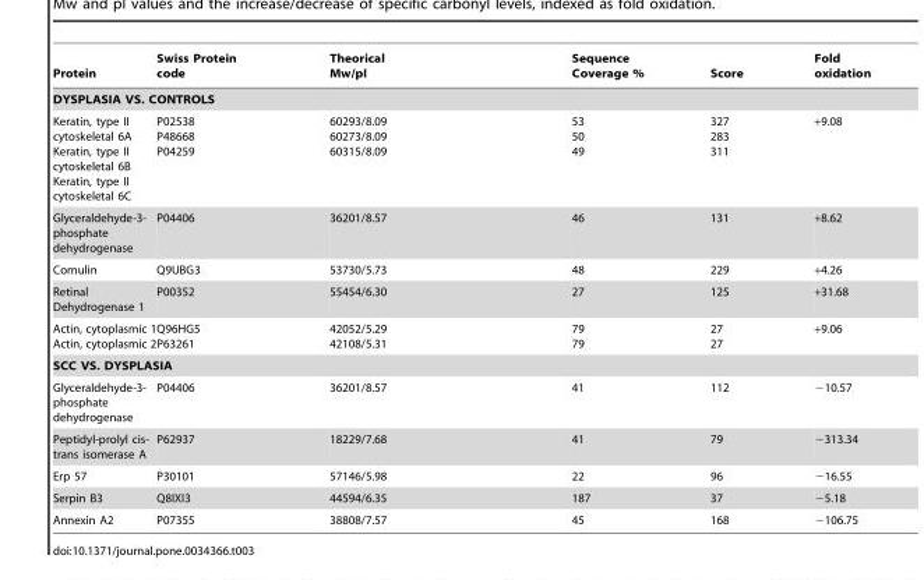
<table><thead><tr><td>Protein</td><td>Swiss Protein code</td><td>Theorical Mw/pI</td><td>Sequence Coverage %</td><td>Score</td><td>Fold oxidation</td></tr></thead><tbody><tr><td colspan="6">DYSPLASIA VS. CONTROLS</td></tr><tr><td>Keratin, type II cytoskeletal 6A Keratin, type II cytoskeletal 6B Keratin, type II cytoskeletal 6C</td><td>P02538 P48668 P04259</td><td>60293/8.09 60273/8.09 60315/8.09</td><td>53 50 49</td><td>327 283 311</td><td>+9.08</td></tr><tr><td>Glyceraldehyde-3- phosphate dehydrogenase</td><td>P04406</td><td>36201/8.57</td><td>46</td><td>131</td><td>+8.62</td></tr><tr><td>Cornulin</td><td>Q9UBG3</td><td>53730/5.73</td><td>48</td><td>229</td><td>+4.26</td></tr><tr><td>Retinal Dehydrogenase 1</td><td>P00352</td><td>55454/6.30</td><td>27</td><td>125</td><td>+31.68</td></tr><tr><td>Actin, cytoplasmic 1 Actin, cytoplasmic 2</td><td>Q96HG5 P63261</td><td>42052/5.29 42108/5.31</td><td>79 79</td><td>27 27</td><td>+9.06</td></tr><tr><td colspan="6">SCC VS. DYSPLASIA</td></tr><tr><td>Glyceraldehyde-3- phosphate dehydrogenase</td><td>P04406</td><td>36201/8.57</td><td>41</td><td>112</td><td>−10.57</td></tr><tr><td>Peptidyl-prolyl cis- trans isomerase A</td><td>P62937</td><td>18229/7.68</td><td>41</td><td>79</td><td>−313.34</td></tr><tr><td>Erp 57</td><td>P30101</td><td>57146/5.98</td><td>22</td><td>96</td><td>−16.55</td></tr><tr><td>Serpin B3</td><td>Q8IXI3</td><td>44594/6.35</td><td>187</td><td>37</td><td>−5.18</td></tr><tr><td>Annexin A2</td><td>P07355</td><td>38808/7.57</td><td>45</td><td>168</td><td>−106.75</td></tr></tbody></table>